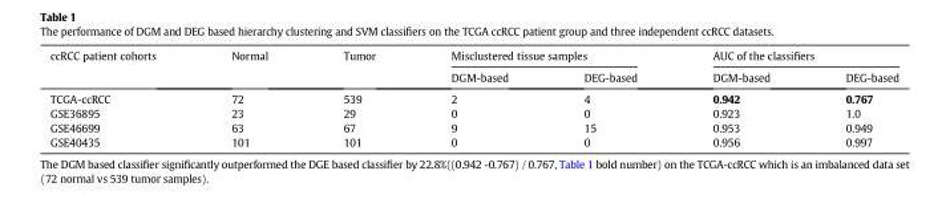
<table><thead><tr><td rowspan="2">ccRCC patient cohorts</td><td rowspan="2">Normal</td><td rowspan="2">Tumor</td><td colspan="2">Misclustered tissue samples</td><td colspan="2">AUC of the classifiers</td></tr><tr><td>DGM-based</td><td>DEG-based</td><td>DGM-based</td><td>DEG-based</td></tr></thead><tbody><tr><td>TCGA-ccRCC</td><td>72</td><td>539</td><td>2</td><td>4</td><td>0.942</td><td>0.767</td></tr><tr><td>GSE36895</td><td>23</td><td>29</td><td>0</td><td>0</td><td>0.923</td><td>1.0</td></tr><tr><td>GSE46699</td><td>63</td><td>67</td><td>9</td><td>15</td><td>0.953</td><td>0.949</td></tr><tr><td>GSE40435</td><td>101</td><td>101</td><td>0</td><td>0</td><td>0.956</td><td>0.997</td></tr></tbody></table>